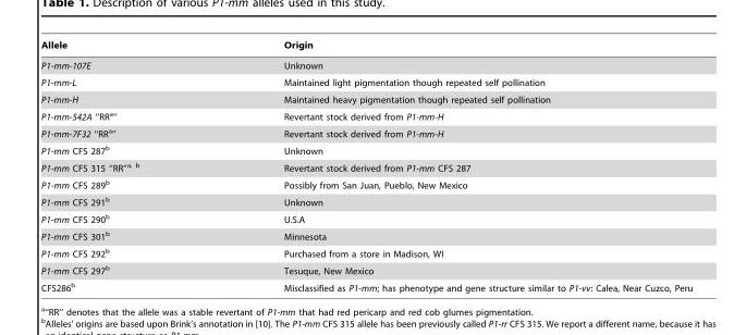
<table><thead><tr><td>Allele</td><td>Origin</td></tr></thead><tbody><tr><td>P1-mm-107E</td><td>Unknown</td></tr><tr><td>P1-mm-L</td><td>Maintained light pigmentation though repeated self pollination</td></tr><tr><td>P1-mm-H</td><td>Maintained heavy pigmentation though repeated self pollination</td></tr><tr><td>P1-mm-542A ‘‘RRa’’</td><td>Revertant stock derived from P1-mm-H</td></tr><tr><td>P1-mm-7F32 ‘‘RRa’’</td><td>Revertant stock derived from P1-mm-H</td></tr><tr><td>P1-mm CFS 287<sup>b</sup></td><td>Unknown</td></tr><tr><td>P1-mm CFS 315 ‘‘RR’’a, b</td><td>Revertant stock derived from P1-mm CFS 287</td></tr><tr><td>P1-mm CFS 289<sup>b</sup></td><td>Possibly from San Juan, Pueblo, New Mexico</td></tr><tr><td>P1-mm CFS 291<sup>b</sup></td><td>Unknown</td></tr><tr><td>P1-mm CFS 290<sup>b</sup></td><td>U.S.A</td></tr><tr><td>P1-mm CFS 301<sup>b</sup></td><td>Minnesota</td></tr><tr><td>P1-mm CFS 292<sup>b</sup></td><td>Purchased from a store in Madison, WI</td></tr><tr><td>P1-mm CFS 297<sup>b</sup></td><td>Tesuque, New Mexico</td></tr><tr><td>CFS286<sup>b</sup></td><td>Misclassified as P1-mm; has phenotype and gene structure similar to P1-vv: Calea, Near Cuzco, Peru</td></tr></tbody></table>